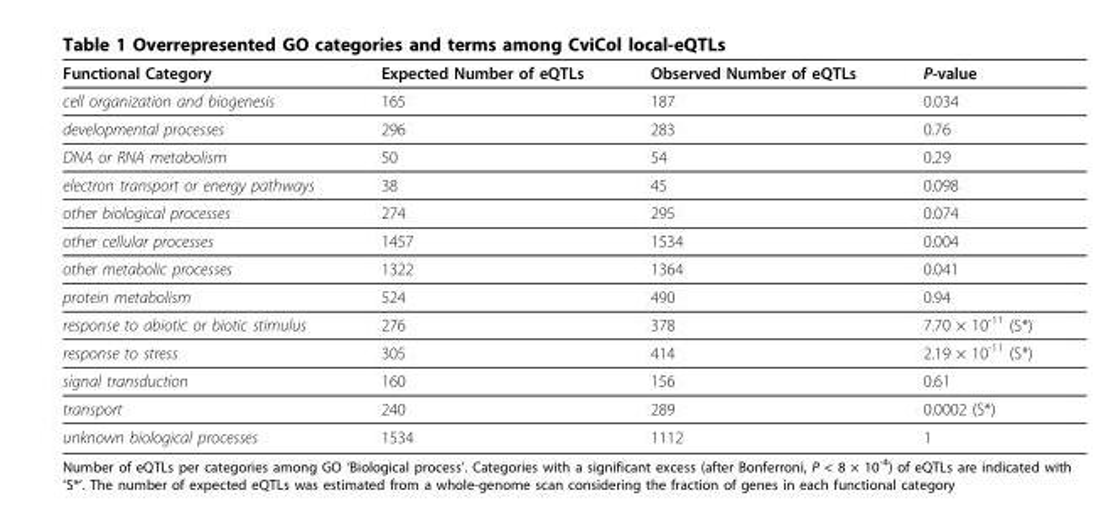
<table><thead><tr><td>Functional Category</td><td>Expected Number of eQTLs</td><td>Observed Number of eQTLs</td><td>P-value</td></tr></thead><tbody><tr><td>cell organization and biogenesis</td><td>165</td><td>187</td><td>0.034</td></tr><tr><td>developmental processes</td><td>296</td><td>283</td><td>0.76</td></tr><tr><td>DNA or RNA metabolism</td><td>50</td><td>54</td><td>0.29</td></tr><tr><td>electron transport or energy pathways</td><td>38</td><td>45</td><td>0.098</td></tr><tr><td>other biological processes</td><td>274</td><td>295</td><td>0.074</td></tr><tr><td>other cellular processes</td><td>1457</td><td>1534</td><td>0.004</td></tr><tr><td>other metabolic processes</td><td>1322</td><td>1364</td><td>0.041</td></tr><tr><td>protein metabolism</td><td>524</td><td>490</td><td>0.94</td></tr><tr><td>response to abiotic or biotic stimulus</td><td>276</td><td>378</td><td>7.70 × 10<sup>-11</sup> (S*)</td></tr><tr><td>response to stress</td><td>305</td><td>414</td><td>2.19 × 10<sup>-11</sup> (S*)</td></tr><tr><td>signal transduction</td><td>160</td><td>156</td><td>0.61</td></tr><tr><td>transport</td><td>240</td><td>289</td><td>0.0002 (S*)</td></tr><tr><td>unknown biological processes</td><td>1534</td><td>1112</td><td>1</td></tr></tbody></table>